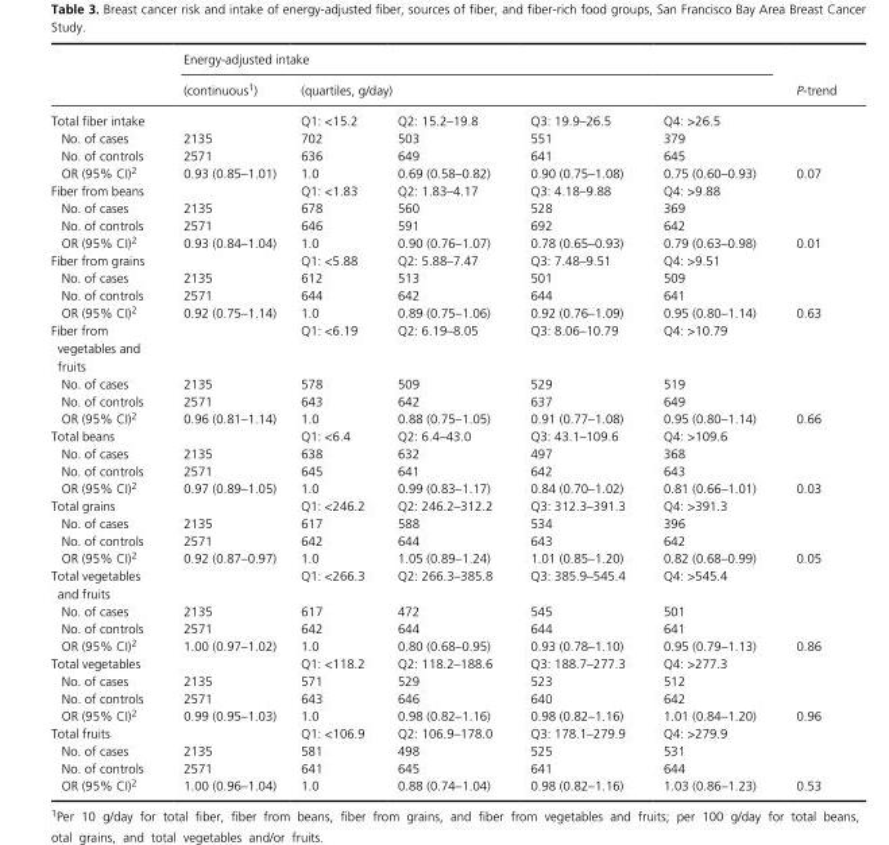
<table><thead><tr><td rowspan="3">Total fiber intake</td><td colspan="5">Energy- adjusted intake</td><td rowspan="3">P- trend</td></tr><tr><td rowspan="2">(continuous1)</td><td colspan="4">(quartiles, g/day)</td></tr><tr><td>Q1: &lt;15.2</td><td>Q2: 15.2–19.8</td><td>Q3: 19.9–26.5</td><td>Q4: &gt;26.5</td></tr></thead><tbody><tr><td>No. of cases</td><td>2135</td><td>702</td><td>503</td><td>551</td><td>379</td><td></td></tr><tr><td>No. of controls</td><td>2571</td><td>636</td><td>649</td><td>641</td><td>645</td><td></td></tr><tr><td>OR (95% CI)2</td><td>0.93 (0.85–1.01)</td><td>1.0</td><td>0.69 (0.58–0.82)</td><td>0.90 (0.75–1.08)</td><td>0.75 (0.60–0.93)</td><td>0.07</td></tr><tr><td>Fiber from beans</td><td></td><td>Q1: &lt;1.83</td><td>Q2: 1.83–4.17</td><td>Q3: 4.18–9.88</td><td>Q4: &gt;9.88</td><td></td></tr><tr><td>No. of cases</td><td>2135</td><td>678</td><td>560</td><td>528</td><td>369</td><td></td></tr><tr><td>No. of controls</td><td>2571</td><td>646</td><td>591</td><td>692</td><td>642</td><td></td></tr><tr><td>OR (95% CI)2</td><td>0.93 (0.84–1.04)</td><td>1.0</td><td>0.90 (0.76–1.07)</td><td>0.78 (0.65–0.93)</td><td>0.79 (0.63–0.98)</td><td>0.01</td></tr><tr><td>Fiber from grains</td><td></td><td>Q1: &lt;5.88</td><td>Q2: 5.88–7.47</td><td>Q3: 7.48–9.51</td><td>Q4: &gt;9.51</td><td></td></tr><tr><td>No. of cases</td><td>2135</td><td>612</td><td>513</td><td>501</td><td>509</td><td></td></tr><tr><td>No. of controls</td><td>2571</td><td>644</td><td>642</td><td>644</td><td>641</td><td></td></tr><tr><td>OR (95% CI)2</td><td>0.92 (0.75–1.14)</td><td>1.0</td><td>0.89 (0.75–1.06)</td><td>0.92 (0.76–1.09)</td><td>0.95 (0.80–1.14)</td><td>0.63</td></tr><tr><td>Fiber from vegetables and fruits</td><td></td><td>Q1: &lt;6.19</td><td>Q2: 6.19–8.05</td><td>Q3: 8.06–10.79</td><td>Q4: &gt;10.79</td><td></td></tr><tr><td>No. of cases</td><td>2135</td><td>578</td><td>509</td><td>529</td><td>519</td><td></td></tr><tr><td>No. of controls</td><td>2571</td><td>643</td><td>642</td><td>637</td><td>649</td><td></td></tr><tr><td>OR (95% CI)2</td><td>0.96 (0.81–1.14)</td><td>1.0</td><td>0.88 (0.75–1.05)</td><td>0.91 (0.77–1.08)</td><td>0.95 (0.80–1.14)</td><td>0.66</td></tr><tr><td>Total beans</td><td></td><td>Q1: &lt;6.4</td><td>Q2: 6.4–43.0</td><td>Q3: 43.1–109.6</td><td>Q4: &gt;109.6</td><td></td></tr><tr><td>No. of cases</td><td>2135</td><td>638</td><td>632</td><td>497</td><td>368</td><td></td></tr><tr><td>No. of controls</td><td>2571</td><td>645</td><td>641</td><td>642</td><td>643</td><td></td></tr><tr><td>OR (95% CI)2</td><td>0.97 (0.89–1.05)</td><td>1.0</td><td>0.99 (0.83–1.17)</td><td>0.84 (0.70–1.02)</td><td>0.81 (0.66–1.01)</td><td>0.03</td></tr><tr><td>Total grains</td><td></td><td>Q1: &lt;246.2</td><td>Q2: 246.2–312.2</td><td>Q3: 312.3–391.3</td><td>Q4: &gt;391.3</td><td></td></tr><tr><td>No. of cases</td><td>2135</td><td>617</td><td>588</td><td>534</td><td>396</td><td></td></tr><tr><td>No. of controls</td><td>2571</td><td>642</td><td>644</td><td>643</td><td>642</td><td></td></tr><tr><td>OR (95% CI)2</td><td>0.92 (0.87–0.97)</td><td>1.0</td><td>1.05 (0.89–1.24)</td><td>1.01 (0.85–1.20)</td><td>0.82 (0.68–0.99)</td><td>0.05</td></tr><tr><td>Total vegetables and fruits</td><td></td><td>Q1: &lt;266.3</td><td>Q2: 266.3–385.8</td><td>Q3: 385.9–545.4</td><td>Q4: &gt;545.4</td><td></td></tr><tr><td>No. of cases</td><td>2135</td><td>617</td><td>472</td><td>545</td><td>501</td><td></td></tr><tr><td>No. of controls</td><td>2571</td><td>642</td><td>644</td><td>644</td><td>641</td><td></td></tr><tr><td>OR (95% CI)2</td><td>1.00 (0.97–1.02)</td><td>1.0</td><td>0.80 (0.68–0.95)</td><td>0.93 (0.78–1.10)</td><td>0.95 (0.79–1.13)</td><td>0.86</td></tr><tr><td>Total vegetables</td><td></td><td>Q1: &lt;118.2</td><td>Q2: 118.2–188.6</td><td>Q3: 188.7–277.3</td><td>Q4: &gt;277.3</td><td></td></tr><tr><td>No. of cases</td><td>2135</td><td>571</td><td>529</td><td>523</td><td>512</td><td></td></tr><tr><td>No. of controls</td><td>2571</td><td>643</td><td>646</td><td>640</td><td>642</td><td></td></tr><tr><td>OR (95% CI)2</td><td>0.99 (0.95–1.03)</td><td>1.0</td><td>0.98 (0.82–1.16)</td><td>0.98 (0.82–1.16)</td><td>1.01 (0.84–1.20)</td><td>0.96</td></tr><tr><td>Total fruits</td><td></td><td>Q1: &lt;106.9</td><td>Q2: 106.9–178.0</td><td>Q3: 178.1–279.9</td><td>Q4: &gt;279.9</td><td></td></tr><tr><td>No. of cases</td><td>2135</td><td>581</td><td>498</td><td>525</td><td>531</td><td></td></tr><tr><td>No. of controls</td><td>2571</td><td>641</td><td>645</td><td>641</td><td>644</td><td></td></tr><tr><td>OR (95% CI)2</td><td>1.00 (0.96–1.04)</td><td>1.0</td><td>0.88 (0.74–1.04)</td><td>0.98 (0.82–1.16)</td><td>1.03 (0.86–1.23)</td><td>0.53</td></tr></tbody></table>